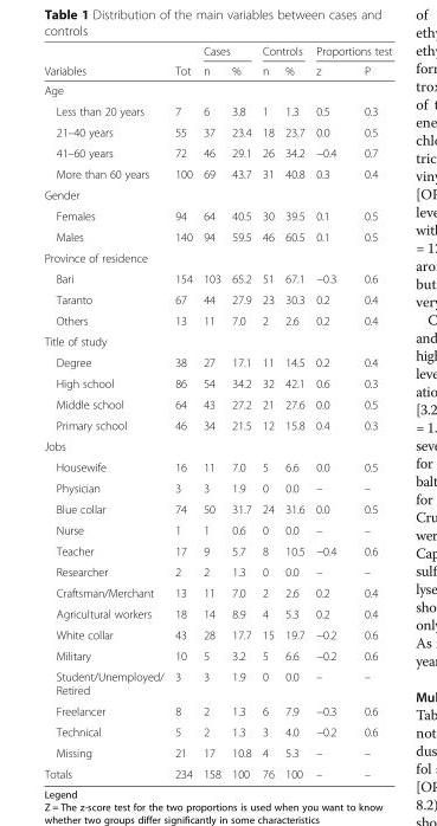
<table><thead><tr><td rowspan="2">Variables</td><td rowspan="2">Tot</td><td colspan="2">Cases</td><td colspan="2">Controls</td><td colspan="2">Proportions test</td></tr><tr><td>n</td><td>%</td><td>n</td><td>%</td><td>z</td><td>P</td></tr></thead><tbody><tr><td colspan="8">Age</td></tr><tr><td>Less than 20 years</td><td>7</td><td>6</td><td>3.8</td><td>1</td><td>1.3</td><td>0.5</td><td>0.3</td></tr><tr><td>21–40 years</td><td>55</td><td>37</td><td>23.4</td><td>18</td><td>23.7</td><td>0.0</td><td>0.5</td></tr><tr><td>41–60 years</td><td>72</td><td>46</td><td>29.1</td><td>26</td><td>34.2</td><td>−0.4</td><td>0.7</td></tr><tr><td>More than 60 years</td><td>100</td><td>69</td><td>43.7</td><td>31</td><td>40.8</td><td>0.3</td><td>0.4</td></tr><tr><td colspan="8">Gender</td></tr><tr><td>Females</td><td>94</td><td>64</td><td>40.5</td><td>30</td><td>39.5</td><td>0.1</td><td>0.5</td></tr><tr><td>Males</td><td>140</td><td>94</td><td>59.5</td><td>46</td><td>60.5</td><td>0.1</td><td>0.5</td></tr><tr><td colspan="8">Province of residence</td></tr><tr><td>Bari</td><td>154</td><td>103</td><td>65.2</td><td>51</td><td>67.1</td><td>−0.3</td><td>0.6</td></tr><tr><td>Taranto</td><td>67</td><td>44</td><td>27.9</td><td>23</td><td>30.3</td><td>0.2</td><td>0.4</td></tr><tr><td>Others</td><td>13</td><td>11</td><td>7.0</td><td>2</td><td>2.6</td><td>0.2</td><td>0.4</td></tr><tr><td colspan="8">Title of study</td></tr><tr><td>Degree</td><td>38</td><td>27</td><td>17.1</td><td>11</td><td>14.5</td><td>0.2</td><td>0.4</td></tr><tr><td>High school</td><td>86</td><td>54</td><td>34.2</td><td>32</td><td>42.1</td><td>0.6</td><td>0.3</td></tr><tr><td>Middle school</td><td>64</td><td>43</td><td>27.2</td><td>21</td><td>27.6</td><td>0.0</td><td>0.5</td></tr><tr><td>Primary school</td><td>46</td><td>34</td><td>21.5</td><td>12</td><td>15.8</td><td>0.4</td><td>0.3</td></tr><tr><td colspan="8">Jobs</td></tr><tr><td>Housewife</td><td>16</td><td>11</td><td>7.0</td><td>5</td><td>6.6</td><td>0.0</td><td>0.5</td></tr><tr><td>Physician</td><td>3</td><td>3</td><td>1.9</td><td>0</td><td>0.0</td><td>–</td><td>–</td></tr><tr><td>Blue collar</td><td>74</td><td>50</td><td>31.7</td><td>24</td><td>31.6</td><td>0.0</td><td>0.5</td></tr><tr><td>Nurse</td><td>1</td><td>1</td><td>0.6</td><td>0</td><td>0.0</td><td>–</td><td>–</td></tr><tr><td>Teacher</td><td>17</td><td>9</td><td>5.7</td><td>8</td><td>10.5</td><td>−0.4</td><td>0.6</td></tr><tr><td>Researcher</td><td>2</td><td>2</td><td>1.3</td><td>0</td><td>0.0</td><td>–</td><td>–</td></tr><tr><td>Craftsman/Merchant</td><td>13</td><td>11</td><td>7.0</td><td>2</td><td>2.6</td><td>0.2</td><td>0.4</td></tr><tr><td>Agricultural workers</td><td>18</td><td>14</td><td>8.9</td><td>4</td><td>5.3</td><td>0.2</td><td>0.4</td></tr><tr><td>White collar</td><td>43</td><td>28</td><td>17.7</td><td>15</td><td>19.7</td><td>−0.2</td><td>0.6</td></tr><tr><td>Military</td><td>10</td><td>5</td><td>3.2</td><td>5</td><td>6.6</td><td>−0.2</td><td>0.6</td></tr><tr><td>Student/Unemployed/ Retired</td><td>3</td><td>3</td><td>1.9</td><td>0</td><td>0.0</td><td>–</td><td>–</td></tr><tr><td>Freelancer</td><td>8</td><td>2</td><td>1.3</td><td>6</td><td>7.9</td><td>−0.3</td><td>0.6</td></tr><tr><td>Technical</td><td>5</td><td>2</td><td>1.3</td><td>3</td><td>4.0</td><td>−0.2</td><td>0.6</td></tr><tr><td>Missing</td><td>21</td><td>17</td><td>10.8</td><td>4</td><td>5.3</td><td>–</td><td>–</td></tr><tr><td>Totals</td><td>234</td><td>158</td><td>100</td><td>76</td><td>100</td><td>–</td><td>–</td></tr></tbody></table>